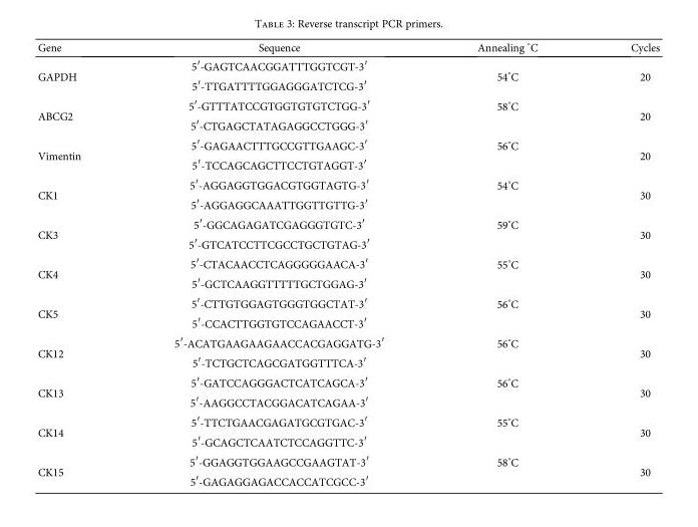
<table><thead><tr><td>Gene</td><td>Sequence</td><td>Annealing °C</td><td>Cycles</td></tr></thead><tbody><tr><td rowspan="2">GAPDH</td><td>5′-GAGTCAACGGATTTGGTCGT-3′</td><td rowspan="2">54°C</td><td rowspan="2">20</td></tr><tr><td>5′-TTGATTTTGGAGGGATCTCG-3′</td></tr><tr><td rowspan="2">ABCG2</td><td>5′-GTTTATCCGTGGTGTGTCTGG-3′</td><td>58°C</td><td rowspan="2">20</td></tr><tr><td>5′-CTGAGCTATAGAGGCCTGGG-3′</td><td></td></tr><tr><td rowspan="2">Vimentin</td><td>5′-GAGAACTTTGCCGTTGAAGC-3′</td><td>56°C</td><td rowspan="2">20</td></tr><tr><td>5′-TCCAGCAGCTTCCTGTAGGT-3′</td><td></td></tr><tr><td rowspan="2">CK1</td><td>5′-AGGAGGTGGACGTGGTAGTG-3′</td><td>54°C</td><td rowspan="2">30</td></tr><tr><td>5′-AGGAGGCAAATTGGTTGTTG-3′</td><td></td></tr><tr><td rowspan="2">CK3</td><td>5′-GGCAGAGATCGAGGGTGTC-3′</td><td>59°C</td><td rowspan="2">30</td></tr><tr><td>5′-GTCATCCTTCGCCTGCTGTAG-3′</td><td></td></tr><tr><td rowspan="2">CK4</td><td>5′-CTACAACCTCAGGGGGAACA-3′</td><td>55°C</td><td rowspan="2">30</td></tr><tr><td>5′-GCTCAAGGTTTTTGCTGGAG-3′</td><td></td></tr><tr><td rowspan="2">CK5</td><td>5′-CTTGTGGAGTGGGTGGCTAT-3′</td><td>56°C</td><td rowspan="2">30</td></tr><tr><td>5′-CCACTTGGTGTCCAGAACCT-3′</td><td></td></tr><tr><td rowspan="2">CK12</td><td>5′-ACATGAAGAAGAACCACGAGGATG-3′</td><td>56°C</td><td rowspan="2">30</td></tr><tr><td>5′-TCTGCTCAGCGATGGTTTCA-3′</td><td></td></tr><tr><td rowspan="2">CK13</td><td>5′-GATCCAGGGACTCATCAGCA-3′</td><td>56°C</td><td rowspan="2">30</td></tr><tr><td>5′-AAGGCCTACGGACATCAGAA-3′</td><td></td></tr><tr><td rowspan="2">CK14</td><td>5′-TTCTGAACGAGATGCGTGAC-3′</td><td>55°C</td><td rowspan="2">30</td></tr><tr><td>5′-GCAGCTCAATCTCCAGGTTC-3′</td><td></td></tr><tr><td rowspan="2">CK15</td><td>5′-GGAGGTGGAAGCCGAAGTAT-3′</td><td>58°C</td><td rowspan="2">30</td></tr><tr><td>5′-GAGAGGAGACCACCATCGCC-3′</td><td></td></tr></tbody></table>